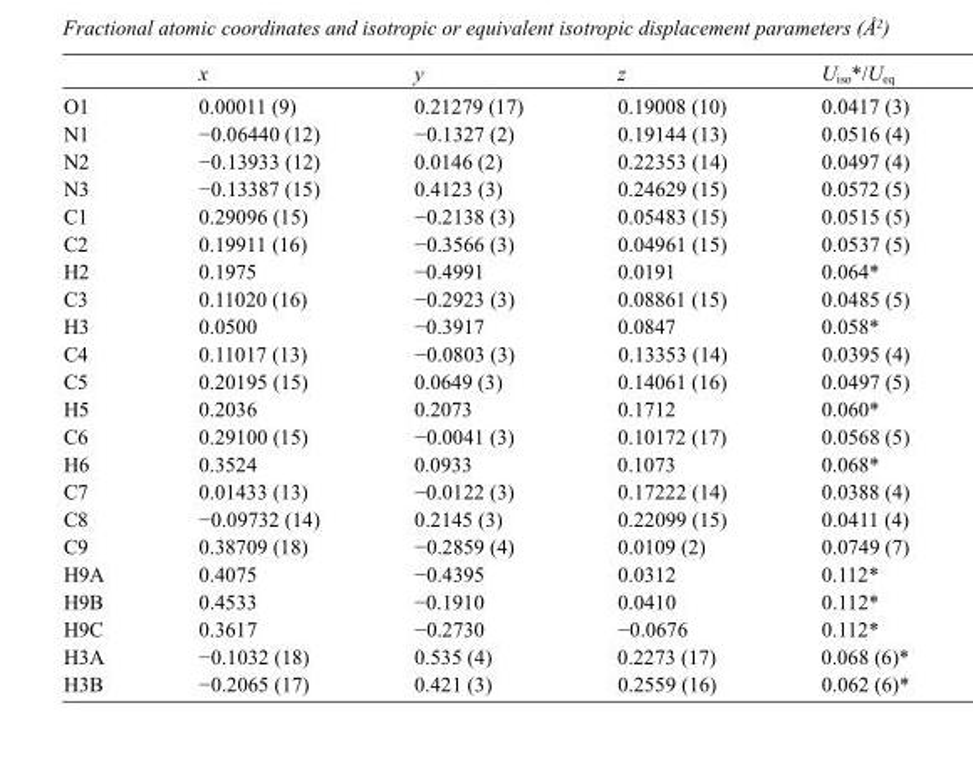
<table><thead><tr><td></td><td>x</td><td>y</td><td>z</td><td>U<sub>iso</sub>*/U<sub>eq</sub></td></tr></thead><tbody><tr><td>O1</td><td>0.00011 (9)</td><td>0.21279 (17)</td><td>0.19008 (10)</td><td>0.0417 (3)</td></tr><tr><td>N1</td><td>−0.06440 (12)</td><td>−0.1327 (2)</td><td>0.19144 (13)</td><td>0.0516 (4)</td></tr><tr><td>N2</td><td>−0.13933 (12)</td><td>0.0146 (2)</td><td>0.22353 (14)</td><td>0.0497 (4)</td></tr><tr><td>N3</td><td>−0.13387 (15)</td><td>0.4123 (3)</td><td>0.24629 (15)</td><td>0.0572 (5)</td></tr><tr><td>C1</td><td>0.29096 (15)</td><td>−0.2138 (3)</td><td>0.05483 (15)</td><td>0.0515 (5)</td></tr><tr><td>C2</td><td>0.19911 (16)</td><td>−0.3566 (3)</td><td>0.04961 (15)</td><td>0.0537 (5)</td></tr><tr><td>H2</td><td>0.1975</td><td>−0.4991</td><td>0.0191</td><td>0.064*</td></tr><tr><td>C3</td><td>0.11020 (16)</td><td>−0.2923 (3)</td><td>0.08861 (15)</td><td>0.0485 (5)</td></tr><tr><td>H3</td><td>0.0500</td><td>−0.3917</td><td>0.0847</td><td>0.058*</td></tr><tr><td>C4</td><td>0.11017 (13)</td><td>−0.0803 (3)</td><td>0.13353 (14)</td><td>0.0395 (4)</td></tr><tr><td>C5</td><td>0.20195 (15)</td><td>0.0649 (3)</td><td>0.14061 (16)</td><td>0.0497 (5)</td></tr><tr><td>H5</td><td>0.2036</td><td>0.2073</td><td>0.1712</td><td>0.060*</td></tr><tr><td>C6</td><td>0.29100 (15)</td><td>−0.0041 (3)</td><td>0.10172 (17)</td><td>0.0568 (5)</td></tr><tr><td>H6</td><td>0.3524</td><td>0.0933</td><td>0.1073</td><td>0.068*</td></tr><tr><td>C7</td><td>0.01433 (13)</td><td>−0.0122 (3)</td><td>0.17222 (14)</td><td>0.0388 (4)</td></tr><tr><td>C8</td><td>−0.09732 (14)</td><td>0.2145 (3)</td><td>0.22099 (15)</td><td>0.0411 (4)</td></tr><tr><td>C9</td><td>0.38709 (18)</td><td>−0.2859 (4)</td><td>0.0109 (2)</td><td>0.0749 (7)</td></tr><tr><td>H9A</td><td>0.4075</td><td>−0.4395</td><td>0.0312</td><td>0.112*</td></tr><tr><td>H9B</td><td>0.4533</td><td>−0.1910</td><td>0.0410</td><td>0.112*</td></tr><tr><td>H9C</td><td>0.3617</td><td>−0.2730</td><td>−0.0676</td><td>0.112*</td></tr><tr><td>H3A</td><td>−0.1032 (18)</td><td>0.535 (4)</td><td>0.2273 (17)</td><td>0.068 (6)*</td></tr><tr><td>H3B</td><td>−0.2065 (17)</td><td>0.421 (3)</td><td>0.2559 (16)</td><td>0.062 (6)*</td></tr></tbody></table>